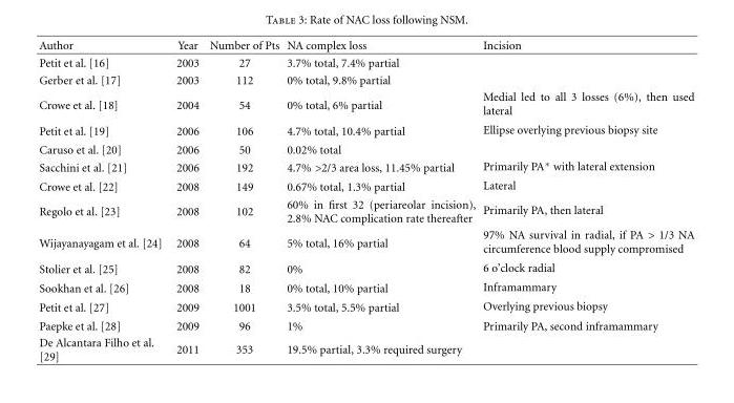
<table><thead><tr><td>Author</td><td>Year</td><td>Number of Pts</td><td>NA complex loss</td><td>Incision</td></tr></thead><tbody><tr><td>Petit et al. [16]</td><td>2003</td><td>27</td><td>3.7% total, 7.4% partial</td><td></td></tr><tr><td>Gerber et al. [17]</td><td>2003</td><td>112</td><td>0% total, 9.8% partial</td><td></td></tr><tr><td>Crowe et al. [18]</td><td>2004</td><td>54</td><td>0% total, 6% partial</td><td>Medial led to all 3 losses (6%), then used lateral</td></tr><tr><td>Petit et al. [19]</td><td>2006</td><td>106</td><td>4.7% total, 10.4% partial</td><td>Ellipse overlying previous biopsy site</td></tr><tr><td>Caruso et al. [20]</td><td>2006</td><td>50</td><td>0.02% total</td><td></td></tr><tr><td>Sacchini et al. [21]</td><td>2006</td><td>192</td><td>4.7% &gt;2/3 area loss, 11.45% partial</td><td>Primarily PA∗ with lateral extension</td></tr><tr><td>Crowe et al. [22]</td><td>2008</td><td>149</td><td>0.67% total, 1.3% partial</td><td>Lateral</td></tr><tr><td>Regolo et al. [23]</td><td>2008</td><td>102</td><td>60% in first 32 (periareolar incision), 2.8% NAC complication rate thereafter</td><td>Primarily PA, then lateral</td></tr><tr><td>Wijayanayagam et al. [24]</td><td>2008</td><td>64</td><td>5% total, 16% partial</td><td>97% NA survival in radial, if PA &gt; 1/3 NA circumference blood supply compromised</td></tr><tr><td>Stolier et al. [25]</td><td>2008</td><td>82</td><td>0%</td><td>6 o’clock radial</td></tr><tr><td>Sookhan et al. [26]</td><td>2008</td><td>18</td><td>0% total, 10% partial</td><td>Inframammary</td></tr><tr><td>Petit et al. [27]</td><td>2009</td><td>1001</td><td>3.5% total, 5.5% partial</td><td>Overlying previous biopsy</td></tr><tr><td>Paepke et al. [28]</td><td>2009</td><td>96</td><td>1%</td><td>Primarily PA, second inframammary</td></tr><tr><td>De Alcantara Filho et al. [29]</td><td>2011</td><td>353</td><td>19.5% partial, 3.3% required surgery</td><td></td></tr></tbody></table>